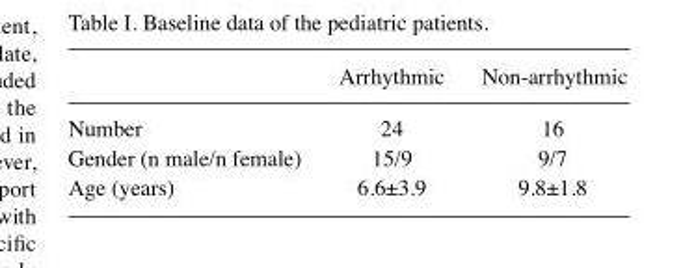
<table><thead><tr><td></td><td>Arrhythmic</td><td>Non-arrhythmic</td></tr></thead><tbody><tr><td>Number</td><td>24</td><td>16</td></tr><tr><td>Gender (n male/n female)</td><td>15/9</td><td>9/7</td></tr><tr><td>Age (years)</td><td>6.6±3.9</td><td>9.8±1.8</td></tr></tbody></table>